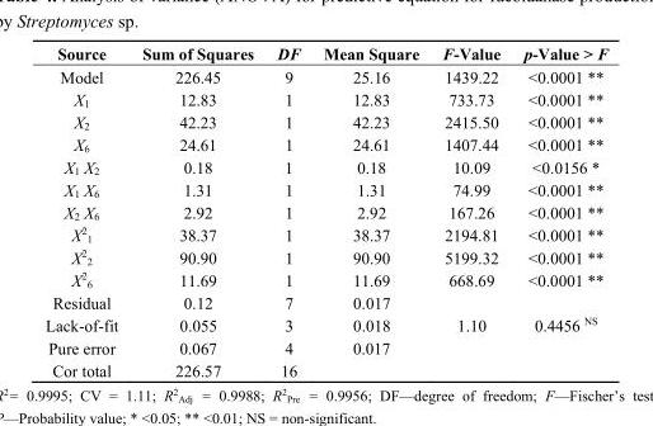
<table><thead><tr><td>Source</td><td>Sum of Squares</td><td>DF</td><td>Mean Square</td><td>F-Value</td><td>p-Value &gt; F</td></tr></thead><tbody><tr><td>Model</td><td>226.45</td><td>9</td><td>25.16</td><td>1439.22</td><td>&lt;0.0001 **</td></tr><tr><td>X<sub>1</sub></td><td>12.83</td><td>1</td><td>12.83</td><td>733.73</td><td>&lt;0.0001 **</td></tr><tr><td>X<sub>2</sub></td><td>42.23</td><td>1</td><td>42.23</td><td>2415.50</td><td>&lt;0.0001 **</td></tr><tr><td>X<sub>6</sub></td><td>24.61</td><td>1</td><td>24.61</td><td>1407.44</td><td>&lt;0.0001 **</td></tr><tr><td>X<sub>1</sub> X<sub>2</sub></td><td>0.18</td><td>1</td><td>0.18</td><td>10.09</td><td>&lt;0.0156 *</td></tr><tr><td>X<sub>1</sub> X<sub>6</sub></td><td>1.31</td><td>1</td><td>1.31</td><td>74.99</td><td>&lt;0.0001 **</td></tr><tr><td>X<sub>2</sub> X<sub>6</sub></td><td>2.92</td><td>1</td><td>2.92</td><td>167.26</td><td>&lt;0.0001 **</td></tr><tr><td>X<sup>2</sup><sub>1</sub></td><td>38.37</td><td>1</td><td>38.37</td><td>2194.81</td><td>&lt;0.0001 **</td></tr><tr><td>X<sup>2</sup><sub>2</sub></td><td>90.90</td><td>1</td><td>90.90</td><td>5199.32</td><td>&lt;0.0001 **</td></tr><tr><td>X<sup>2</sup><sub>6</sub></td><td>11.69</td><td>1</td><td>11.69</td><td>668.69</td><td>&lt;0.0001 **</td></tr><tr><td>Residual</td><td>0.12</td><td>7</td><td>0.017</td><td></td><td></td></tr><tr><td>Lack-of-fit</td><td>0.055</td><td>3</td><td>0.018</td><td>1.10</td><td>0.4456 <sup>NS</sup></td></tr><tr><td>Pure error</td><td>0.067</td><td>4</td><td>0.017</td><td></td><td></td></tr><tr><td>Cor total</td><td>226.57</td><td>16</td><td></td><td></td><td></td></tr></tbody></table>